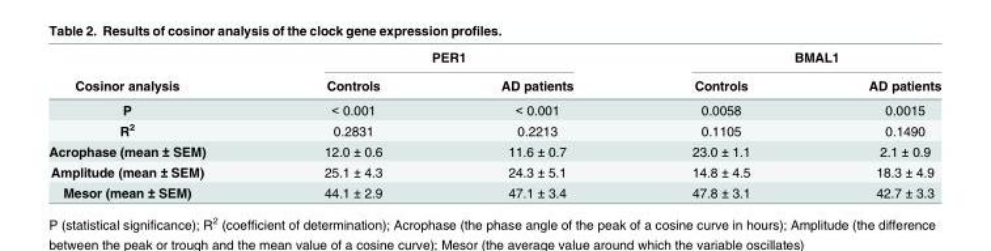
<table><thead><tr><td rowspan="2">Cosinor analysis</td><td colspan="2">PER1</td><td colspan="2">BMAL1</td></tr><tr><td>Controls</td><td>AD patients</td><td>Controls</td><td>AD patients</td></tr></thead><tbody><tr><td>P</td><td>&lt; 0.001</td><td>&lt; 0.001</td><td>0.0058</td><td>0.0015</td></tr><tr><td>R<sup>2</sup></td><td>0.2831</td><td>0.2213</td><td>0.1105</td><td>0.1490</td></tr><tr><td>Acrophase (mean ± SEM)</td><td>12.0 ± 0.6</td><td>11.6 ± 0.7</td><td>23.0 ± 1.1</td><td>2.1 ± 0.9</td></tr><tr><td>Amplitude (mean ± SEM)</td><td>25.1 ± 4.3</td><td>24.3 ± 5.1</td><td>14.8 ± 4.5</td><td>18.3 ± 4.9</td></tr><tr><td>Mesor (mean ± SEM)</td><td>44.1 ± 2.9</td><td>47.1 ± 3.4</td><td>47.8 ± 3.1</td><td>42.7 ± 3.3</td></tr></tbody></table>